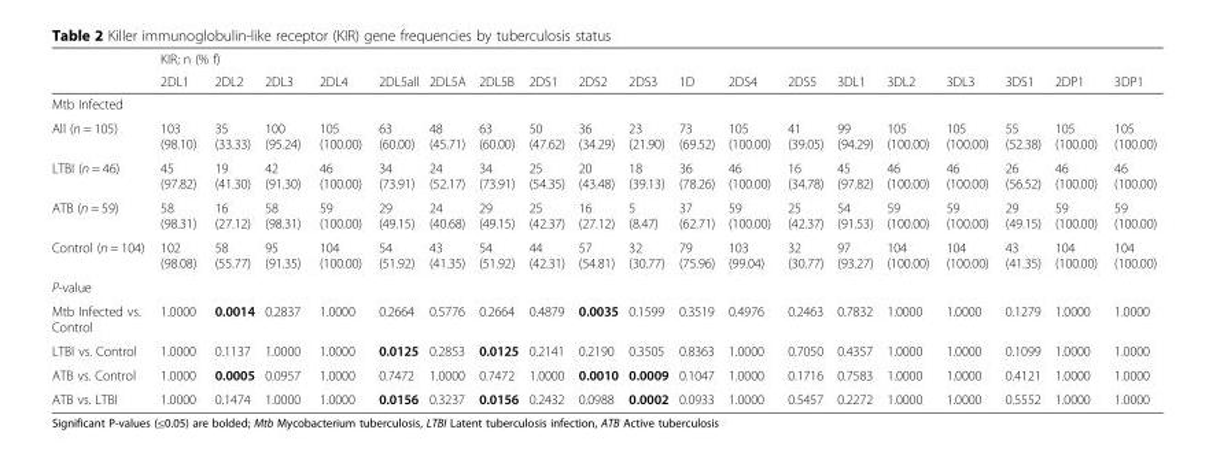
<table><thead><tr><td rowspan="2"></td><td colspan="19">KIR; n (% f)</td></tr><tr><td>2DL1</td><td>2DL2</td><td>2DL3</td><td>2DL4</td><td>2DL5all</td><td>2DL5A</td><td>2DL5B</td><td>2DS1</td><td>2DS2</td><td>2DS3</td><td>1D</td><td>2DS4</td><td>2DS5</td><td>3DL1</td><td>3DL2</td><td>3DL3</td><td>3DS1</td><td>2DP1</td><td>3DP1</td></tr></thead><tbody><tr><td colspan="20">Mtb Infected</td></tr><tr><td>All (n = 105)</td><td>103 (98.10)</td><td>35 (33.33)</td><td>100 (95.24)</td><td>105 (100.00)</td><td>63 (60.00)</td><td>48 (45.71)</td><td>63 (60.00)</td><td>50 (47.62)</td><td>36 (34.29)</td><td>23 (21.90)</td><td>73 (69.52)</td><td>105 (100.00)</td><td>41 (39.05)</td><td>99 (94.29)</td><td>105 (100.00)</td><td>105 (100.00)</td><td>55 (52.38)</td><td>105 (100.00)</td><td>105 (100.00)</td></tr><tr><td>LTBI (n = 46)</td><td>45 (97.82)</td><td>19 (41.30)</td><td>42 (91.30)</td><td>46 (100.00)</td><td>34 (73.91)</td><td>24 (52.17)</td><td>34 (73.91)</td><td>25 (54.35)</td><td>20 (43.48)</td><td>18 (39.13)</td><td>36 (78.26)</td><td>46 (100.00)</td><td>16 (34.78)</td><td>45 (97.82)</td><td>46 (100.00)</td><td>46 (100.00)</td><td>26 (56.52)</td><td>46 (100.00)</td><td>46 (100.00)</td></tr><tr><td>ATB (n = 59)</td><td>58 (98.31)</td><td>16 (27.12)</td><td>58 (98.31)</td><td>59 (100.00)</td><td>29 (49.15)</td><td>24 (40.68)</td><td>29 (49.15)</td><td>25 (42.37)</td><td>16 (27.12)</td><td>5 (8.47)</td><td>37 (62.71)</td><td>59 (100.00)</td><td>25 (42.37)</td><td>54 (91.53)</td><td>59 (100.00)</td><td>59 (100.00)</td><td>29 (49.15)</td><td>59 (100.00)</td><td>59 (100.00)</td></tr><tr><td>Control (n = 104)</td><td>102 (98.08)</td><td>58 (55.77)</td><td>95 (91.35)</td><td>104 (100.00)</td><td>54 (51.92)</td><td>43 (41.35)</td><td>54 (51.92)</td><td>44 (42.31)</td><td>57 (54.81)</td><td>32 (30.77)</td><td>79 (75.96)</td><td>103 (99.04)</td><td>32 (30.77)</td><td>97 (93.27)</td><td>104 (100.00)</td><td>104 (100.00)</td><td>43 (41.35)</td><td>104 (100.00)</td><td>104 (100.00)</td></tr><tr><td colspan="20">P-value</td></tr><tr><td>Mtb Infected vs. Control</td><td>1.0000</td><td>0.0014</td><td>0.2837</td><td>1.0000</td><td>0.2664</td><td>0.5776</td><td>0.2664</td><td>0.4879</td><td>0.0035</td><td>0.1599</td><td>0.3519</td><td>0.4976</td><td>0.2463</td><td>0.7832</td><td>1.0000</td><td>1.0000</td><td>0.1279</td><td>1.0000</td><td>1.0000</td></tr><tr><td>LTBI vs. Control</td><td>1.0000</td><td>0.1137</td><td>1.0000</td><td>1.0000</td><td>0.0125</td><td>0.2853</td><td>0.0125</td><td>0.2141</td><td>0.2190</td><td>0.3505</td><td>0.8363</td><td>1.0000</td><td>0.7050</td><td>0.4357</td><td>1.0000</td><td>1.0000</td><td>0.1099</td><td>1.0000</td><td>1.0000</td></tr><tr><td>ATB vs. Control</td><td>1.0000</td><td>0.0005</td><td>0.0957</td><td>1.0000</td><td>0.7472</td><td>1.0000</td><td>0.7472</td><td>1.0000</td><td>0.0010</td><td>0.0009</td><td>0.1047</td><td>1.0000</td><td>0.1716</td><td>0.7583</td><td>1.0000</td><td>1.0000</td><td>0.4121</td><td>1.0000</td><td>1.0000</td></tr><tr><td>ATB vs. LTBI</td><td>1.0000</td><td>0.1474</td><td>1.0000</td><td>1.0000</td><td>0.0156</td><td>0.3237</td><td>0.0156</td><td>0.2432</td><td>0.0988</td><td>0.0002</td><td>0.0933</td><td>1.0000</td><td>0.5457</td><td>0.2272</td><td>1.0000</td><td>1.0000</td><td>0.5552</td><td>1.0000</td><td>1.0000</td></tr></tbody></table>